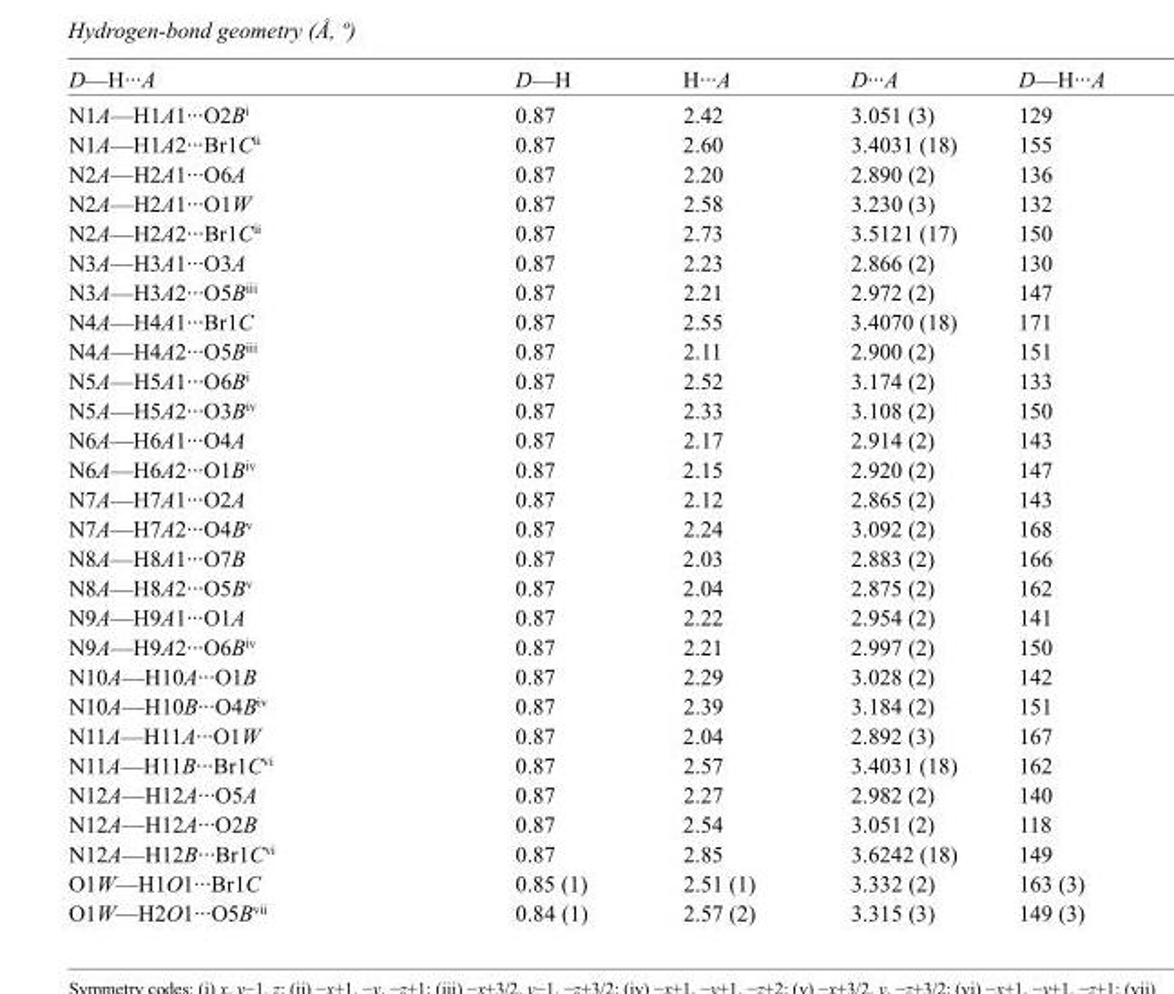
<table><tbody><tr><td>D—H···A</td><td>D—H</td><td>H···A</td><td>D···A</td><td>D—H···A</td></tr><tr><td>N1A—H1A1···O2B<sup>i</sup></td><td>0.87</td><td>2.42</td><td>3.051 (3)</td><td>129</td></tr><tr><td>N1A—H1A2···Br1C<sup>ii</sup></td><td>0.87</td><td>2.60</td><td>3.4031 (18)</td><td>155</td></tr><tr><td>N2A—H2A1···O6A</td><td>0.87</td><td>2.20</td><td>2.890 (2)</td><td>136</td></tr><tr><td>N2A—H2A1···O1W</td><td>0.87</td><td>2.58</td><td>3.230 (3)</td><td>132</td></tr><tr><td>N2A—H2A2···Br1C<sup>ii</sup></td><td>0.87</td><td>2.73</td><td>3.5121 (17)</td><td>150</td></tr><tr><td>N3A—H3A1···O3A</td><td>0.87</td><td>2.23</td><td>2.866 (2)</td><td>130</td></tr><tr><td>N3A—H3A2···O5B<sup>iii</sup></td><td>0.87</td><td>2.21</td><td>2.972 (2)</td><td>147</td></tr><tr><td>N4A—H4A1···Br1C</td><td>0.87</td><td>2.55</td><td>3.4070 (18)</td><td>171</td></tr><tr><td>N4A—H4A2···O5B<sup>iii</sup></td><td>0.87</td><td>2.11</td><td>2.900 (2)</td><td>151</td></tr><tr><td>N5A—H5A1···O6B<sup>i</sup></td><td>0.87</td><td>2.52</td><td>3.174 (2)</td><td>133</td></tr><tr><td>N5A—H5A2···O3B<sup>iv</sup></td><td>0.87</td><td>2.33</td><td>3.108 (2)</td><td>150</td></tr><tr><td>N6A—H6A1···O4A</td><td>0.87</td><td>2.17</td><td>2.914 (2)</td><td>143</td></tr><tr><td>N6A—H6A2···O1B<sup>iv</sup></td><td>0.87</td><td>2.15</td><td>2.920 (2)</td><td>147</td></tr><tr><td>N7A—H7A1···O2A</td><td>0.87</td><td>2.12</td><td>2.865 (2)</td><td>143</td></tr><tr><td>N7A—H7A2···O4B<sup>v</sup></td><td>0.87</td><td>2.24</td><td>3.092 (2)</td><td>168</td></tr><tr><td>N8A—H8A1···O7B</td><td>0.87</td><td>2.03</td><td>2.883 (2)</td><td>166</td></tr><tr><td>N8A—H8A2···O5B<sup>v</sup></td><td>0.87</td><td>2.04</td><td>2.875 (2)</td><td>162</td></tr><tr><td>N9A—H9A1···O1A</td><td>0.87</td><td>2.22</td><td>2.954 (2)</td><td>141</td></tr><tr><td>N9A—H9A2···O6B<sup>iv</sup></td><td>0.87</td><td>2.21</td><td>2.997 (2)</td><td>150</td></tr><tr><td>N10A—H10A···O1B</td><td>0.87</td><td>2.29</td><td>3.028 (2)</td><td>142</td></tr><tr><td>N10A—H10B···O4B<sup>iv</sup></td><td>0.87</td><td>2.39</td><td>3.184 (2)</td><td>151</td></tr><tr><td>N11A—H11A···O1W</td><td>0.87</td><td>2.04</td><td>2.892 (3)</td><td>167</td></tr><tr><td>N11A—H11B···Br1C<sup>vi</sup></td><td>0.87</td><td>2.57</td><td>3.4031 (18)</td><td>162</td></tr><tr><td>N12A—H12A···O5A</td><td>0.87</td><td>2.27</td><td>2.982 (2)</td><td>140</td></tr><tr><td>N12A—H12A···O2B</td><td>0.87</td><td>2.54</td><td>3.051 (2)</td><td>118</td></tr><tr><td>N12A—H12B···Br1C<sup>vi</sup></td><td>0.87</td><td>2.85</td><td>3.6242 (18)</td><td>149</td></tr><tr><td>O1W—H1O1···Br1C</td><td>0.85 (1)</td><td>2.51 (1)</td><td>3.332 (2)</td><td>163 (3)</td></tr><tr><td>O1W—H2O1···O5B<sup>vii</sup></td><td>0.84 (1)</td><td>2.57 (2)</td><td>3.315 (3)</td><td>149 (3)</td></tr></tbody></table>